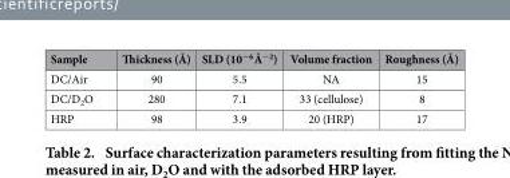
<table><thead><tr><td>Sample</td><td>Thickness (Å)</td><td>SLD (10<sup>−6</sup> Å<sup>−2</sup>)</td><td>Volume fraction</td><td>Roughness (Å)</td></tr></thead><tbody><tr><td>DC/Air</td><td>90</td><td>5.5</td><td>NA</td><td>15</td></tr><tr><td>DC/D<sub>2</sub>O</td><td>280</td><td>7.1</td><td>33 (cellulose)</td><td>8</td></tr><tr><td>HRP</td><td>98</td><td>3.9</td><td>20 (HRP)</td><td>17</td></tr></tbody></table>